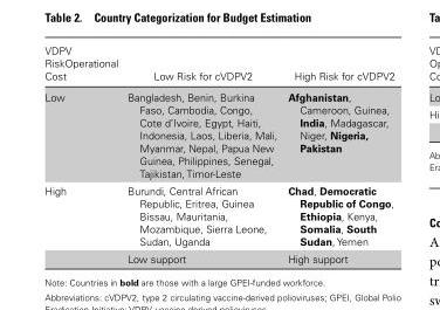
<table><thead><tr><td>VDPV RiskOperational Cost</td><td>Low Risk for cVDPV2</td><td>High Risk for cVDPV2</td></tr></thead><tbody><tr><td>Low</td><td>Bangladesh, Benin, Burkina Faso, Cambodia, Congo, Cote d’Ivoire, Egypt, Haiti, Indonesia, Laos, Liberia, Mali, Myanmar, Nepal, Papua New Guinea, Philippines, Senegal, Tajikistan, Timor-Leste</td><td>Afghanistan, Cameroon, Guinea, India, Madagascar, Niger, Nigeria, Pakistan</td></tr><tr><td rowspan="2">High</td><td>Burundi, Central African Republic, Eritrea, Guinea Bissau, Mauritania, Mozambique, Sierra Leone, Sudan, Uganda</td><td>Chad, Democratic Republic of Congo, Ethiopia, Kenya, Somalia, South Sudan, Yemen</td></tr><tr><td>Low support</td><td>High support</td></tr></tbody></table>